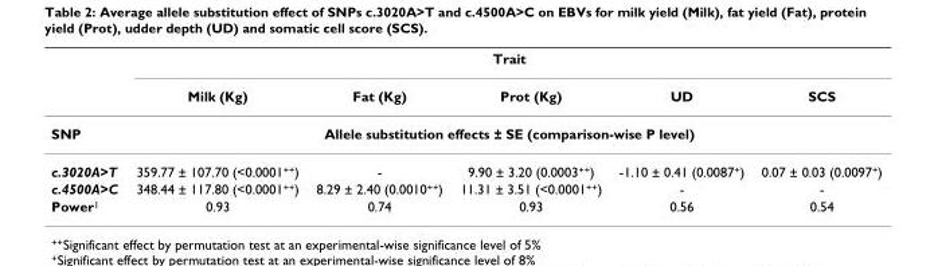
<table><thead><tr><td rowspan="2"></td><td colspan="5">Trait</td></tr><tr><td>Milk (Kg)</td><td>Fat (Kg)</td><td>Prot (Kg)</td><td>UD</td><td>SCS</td></tr></thead><tbody><tr><td>SNP</td><td colspan="5">Allele substitution effects ± SE (comparison-wise P level)</td></tr><tr><td>c.3020A&gt;T</td><td>359.77 ± 107.70 (&lt;0.0001<sup>++</sup>)</td><td>-</td><td>9.90 ± 3.20 (0.0003<sup>++</sup>)</td><td>-1.10 ± 0.41 (0.0087<sup>+</sup>)</td><td>0.07 ± 0.03 (0.0097<sup>+</sup>)</td></tr><tr><td>c.4500A&gt;C</td><td>348.44 ± 117.80 (&lt;0.0001<sup>++</sup>)</td><td>8.29 ± 2.40 (0.0010<sup>++</sup>)</td><td>11.31 ± 3.51 (&lt;0.0001<sup>++</sup>)</td><td>-</td><td>-</td></tr><tr><td>Power<sup>1</sup></td><td>0.93</td><td>0.74</td><td>0.93</td><td>0.56</td><td>0.54</td></tr></tbody></table>